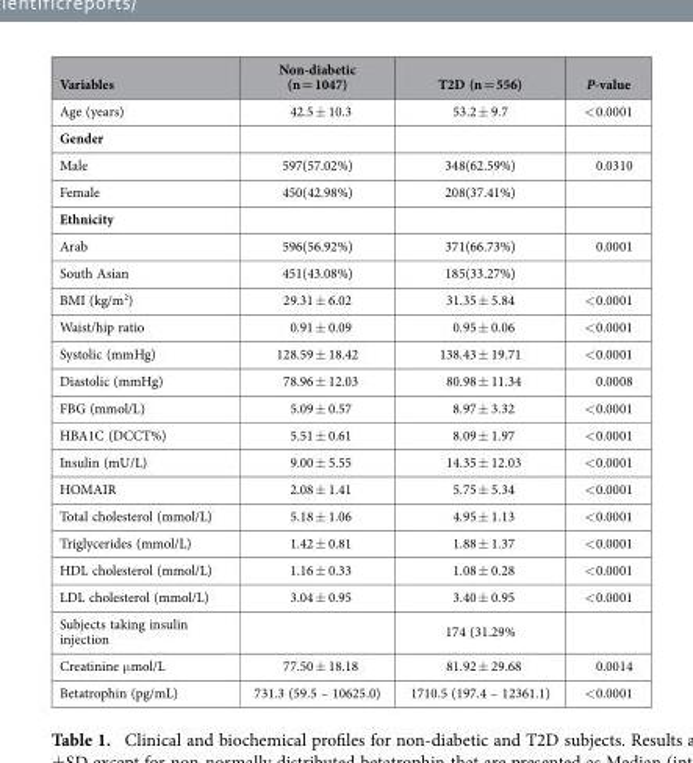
<table><thead><tr><td>Variables</td><td>Non-diabetic (n = 1047)</td><td>T2D (n = 556)</td><td>P-value</td></tr></thead><tbody><tr><td>Age (years)</td><td>42.5 ± 10.3</td><td>53.2 ± 9.7</td><td>&lt; 0.0001</td></tr><tr><td colspan="4">Gender</td></tr><tr><td>Male</td><td>597(57.02%)</td><td>348(62.59%)</td><td>0.0310</td></tr><tr><td>Female</td><td>450(42.98%)</td><td>208(37.41%)</td><td></td></tr><tr><td colspan="4">Ethnicity</td></tr><tr><td>Arab</td><td>596(56.92%)</td><td>371(66.73%)</td><td>0.0001</td></tr><tr><td>South Asian</td><td>451(43.08%)</td><td>185(33.27%)</td><td></td></tr><tr><td>BMI (kg/m<sup>2</sup>)</td><td>29.31 ± 6.02</td><td>31.35 ± 5.84</td><td>&lt; 0.0001</td></tr><tr><td>Waist/hip ratio</td><td>0.91 ± 0.09</td><td>0.95 ± 0.06</td><td>&lt; 0.0001</td></tr><tr><td>Systolic (mmHg)</td><td>128.59 ± 18.42</td><td>138.43 ± 19.71</td><td>&lt; 0.0001</td></tr><tr><td>Diastolic (mmHg)</td><td>78.96 ± 12.03</td><td>80.98 ± 11.34</td><td>0.0008</td></tr><tr><td>FBG (mmol/L)</td><td>5.09 ± 0.57</td><td>8.97 ± 3.32</td><td>&lt; 0.0001</td></tr><tr><td>HBA1C (DCCT%)</td><td>5.51 ± 0.61</td><td>8.09 ± 1.97</td><td>&lt; 0.0001</td></tr><tr><td>Insulin (mU/L)</td><td>9.00 ± 5.55</td><td>14.35 ± 12.03</td><td>&lt; 0.0001</td></tr><tr><td>HOMAIR</td><td>2.08 ± 1.41</td><td>5.75 ± 5.34</td><td>&lt; 0.0001</td></tr><tr><td>Total cholesterol (mmol/L)</td><td>5.18 ± 1.06</td><td>4.95 ± 1.13</td><td>&lt; 0.0001</td></tr><tr><td>Triglycerides (mmol/L)</td><td>1.42 ± 0.81</td><td>1.88 ± 1.37</td><td>&lt; 0.0001</td></tr><tr><td>HDL cholesterol (mmol/L)</td><td>1.16 ± 0.33</td><td>1.08 ± 0.28</td><td>&lt; 0.0001</td></tr><tr><td>LDL cholesterol (mmol/L)</td><td>3.04 ± 0.95</td><td>3.40 ± 0.95</td><td>&lt; 0.0001</td></tr><tr><td>Subjects taking insulin injection</td><td></td><td>174 (31.29%</td><td></td></tr><tr><td>Creatinine μ mol/L</td><td>77.50 ± 18.18</td><td>81.92 ± 29.68</td><td>0.0014</td></tr><tr><td>Betatrophin (pg/mL)</td><td>731.3 (59.5 – 10625.0)</td><td>1710.5 (197.4 – 12361.1)</td><td>&lt; 0.0001</td></tr></tbody></table>